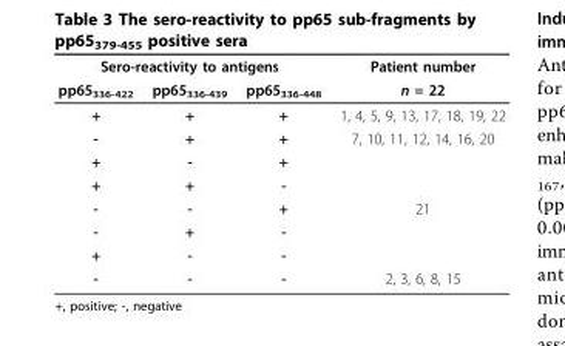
<table><thead><tr><td colspan="3">Sero-reactivity to antigens</td><td rowspan="2">Patient number n = 22</td></tr><tr><td>pp65<sub>336-422</sub></td><td>pp65<sub>336-439</sub></td><td>pp65<sub>336-448</sub></td></tr></thead><tbody><tr><td>+</td><td>+</td><td>+</td><td>1, 4, 5, 9, 13, 17, 18, 19, 22</td></tr><tr><td>-</td><td>+</td><td>+</td><td>7, 10, 11, 12, 14, 16, 20</td></tr><tr><td>+</td><td>-</td><td>+</td><td></td></tr><tr><td>+</td><td>+</td><td>-</td><td></td></tr><tr><td>-</td><td>-</td><td>+</td><td>21</td></tr><tr><td>-</td><td>+</td><td>-</td><td></td></tr><tr><td>+</td><td>-</td><td>-</td><td></td></tr><tr><td>-</td><td>-</td><td>-</td><td>2, 3, 6, 8, 15</td></tr></tbody></table>